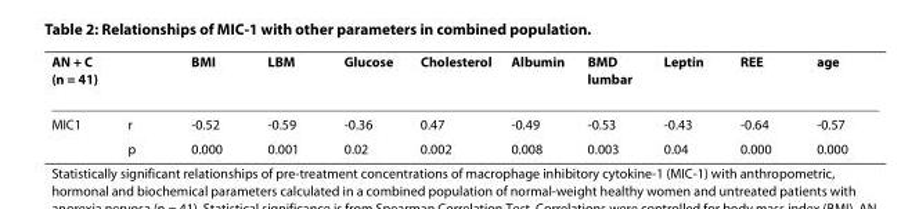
<table><thead><tr><td>AN + C (n = 41)</td><td></td><td>BMI</td><td>LBM</td><td>Glucose</td><td>Cholesterol</td><td>Albumin</td><td>BMD lumbar</td><td>Leptin</td><td>REE</td><td>age</td></tr></thead><tbody><tr><td rowspan="2">MIC1</td><td>r</td><td>-0.52</td><td>-0.59</td><td>-0.36</td><td>0.47</td><td>-0.49</td><td>-0.53</td><td>-0.43</td><td>-0.64</td><td>-0.57</td></tr><tr><td>p</td><td>0.000</td><td>0.001</td><td>0.02</td><td>0.002</td><td>0.008</td><td>0.003</td><td>0.04</td><td>0.000</td><td>0.000</td></tr></tbody></table>